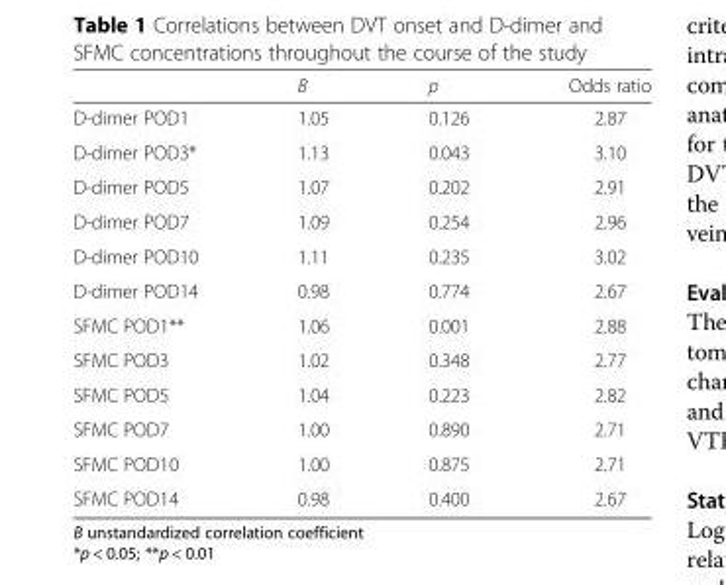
<table><thead><tr><td></td><td>B</td><td>p</td><td>Odds ratio</td></tr></thead><tbody><tr><td>D-dimer POD1</td><td>1.05</td><td>0.126</td><td>2.87</td></tr><tr><td>D-dimer POD3*</td><td>1.13</td><td>0.043</td><td>3.10</td></tr><tr><td>D-dimer POD5</td><td>1.07</td><td>0.202</td><td>2.91</td></tr><tr><td>D-dimer POD7</td><td>1.09</td><td>0.254</td><td>2.96</td></tr><tr><td>D-dimer POD10</td><td>1.11</td><td>0.235</td><td>3.02</td></tr><tr><td>D-dimer POD14</td><td>0.98</td><td>0.774</td><td>2.67</td></tr><tr><td>SFMC POD1**</td><td>1.06</td><td>0.001</td><td>2.88</td></tr><tr><td>SFMC POD3</td><td>1.02</td><td>0.348</td><td>2.77</td></tr><tr><td>SFMC POD5</td><td>1.04</td><td>0.223</td><td>2.82</td></tr><tr><td>SFMC POD7</td><td>1.00</td><td>0.890</td><td>2.71</td></tr><tr><td>SFMC POD10</td><td>1.00</td><td>0.875</td><td>2.71</td></tr><tr><td>SFMC POD14</td><td>0.98</td><td>0.400</td><td>2.67</td></tr></tbody></table>